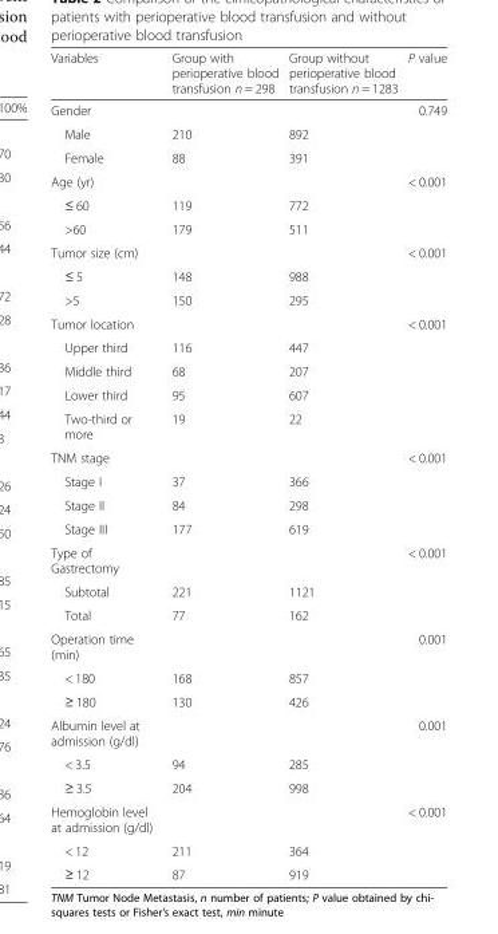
<table><thead><tr><td>Variables</td><td>Group with perioperative blood transfusion n = 298</td><td>Group without perioperative blood transfusion n = 1283</td><td>P value</td></tr></thead><tbody><tr><td>Gender</td><td></td><td></td><td>0.749</td></tr><tr><td>Male</td><td>210</td><td>892</td><td></td></tr><tr><td>Female</td><td>88</td><td>391</td><td></td></tr><tr><td>Age (yr)</td><td></td><td></td><td>&lt; 0.001</td></tr><tr><td>≤ 60</td><td>119</td><td>772</td><td></td></tr><tr><td>&gt;60</td><td>179</td><td>511</td><td></td></tr><tr><td>Tumor size (cm)</td><td></td><td></td><td>&lt; 0.001</td></tr><tr><td>≤ 5</td><td>148</td><td>988</td><td></td></tr><tr><td>&gt;5</td><td>150</td><td>295</td><td></td></tr><tr><td>Tumor location</td><td></td><td></td><td>&lt; 0.001</td></tr><tr><td>Upper third</td><td>116</td><td>447</td><td></td></tr><tr><td>Middle third</td><td>68</td><td>207</td><td></td></tr><tr><td>Lower third</td><td>95</td><td>607</td><td></td></tr><tr><td>Two-third or more</td><td>19</td><td>22</td><td></td></tr><tr><td>TNM stage</td><td></td><td></td><td>&lt; 0.001</td></tr><tr><td>Stage I</td><td>37</td><td>366</td><td></td></tr><tr><td>Stage II</td><td>84</td><td>298</td><td></td></tr><tr><td>Stage III</td><td>177</td><td>619</td><td></td></tr><tr><td>Type of Gastrectomy</td><td></td><td></td><td>&lt; 0.001</td></tr><tr><td>Subtotal</td><td>221</td><td>1121</td><td></td></tr><tr><td>Total</td><td>77</td><td>162</td><td></td></tr><tr><td>Operation time (min)</td><td></td><td></td><td>0.001</td></tr><tr><td>&lt; 180</td><td>168</td><td>857</td><td></td></tr><tr><td>≥ 180</td><td>130</td><td>426</td><td></td></tr><tr><td>Albumin level at admission (g/dl)</td><td></td><td></td><td>0.001</td></tr><tr><td>&lt; 3.5</td><td>94</td><td>285</td><td></td></tr><tr><td>≥ 3.5</td><td>204</td><td>998</td><td></td></tr><tr><td>Hemoglobin level at admission (g/dl)</td><td></td><td></td><td>&lt; 0.001</td></tr><tr><td>&lt; 12</td><td>211</td><td>364</td><td></td></tr><tr><td>≥ 12</td><td>87</td><td>919</td><td></td></tr></tbody></table>